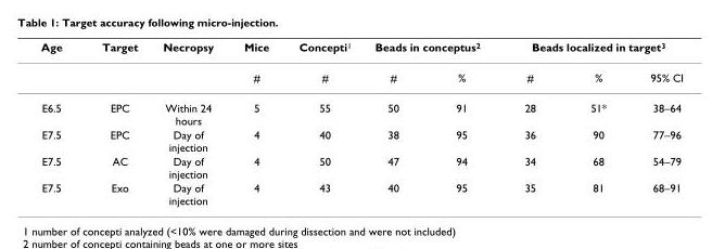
<table><thead><tr><td rowspan="2">Age</td><td rowspan="2">Target</td><td rowspan="2">Necropsy</td><td rowspan="2">Mice #</td><td rowspan="2">Concepti1 #</td><td colspan="2">Beads in conceptus2</td><td colspan="3">Beads localized in target3</td></tr><tr><td>#</td><td>%</td><td>#</td><td>%</td><td>95% CI</td></tr></thead><tbody><tr><td>E6.5</td><td>EPC</td><td>Within 24 hours</td><td>5</td><td>55</td><td>50</td><td>91</td><td>28</td><td>51*</td><td>38–64</td></tr><tr><td>E7.5</td><td>EPC</td><td>Day of injection</td><td>4</td><td>40</td><td>38</td><td>95</td><td>36</td><td>90</td><td>77–96</td></tr><tr><td>E7.5</td><td>AC</td><td>Day of injection</td><td>4</td><td>50</td><td>47</td><td>94</td><td>34</td><td>68</td><td>54–79</td></tr><tr><td>E7.5</td><td>Exo</td><td>Day of injection</td><td>4</td><td>43</td><td>40</td><td>95</td><td>35</td><td>81</td><td>68–91</td></tr></tbody></table>